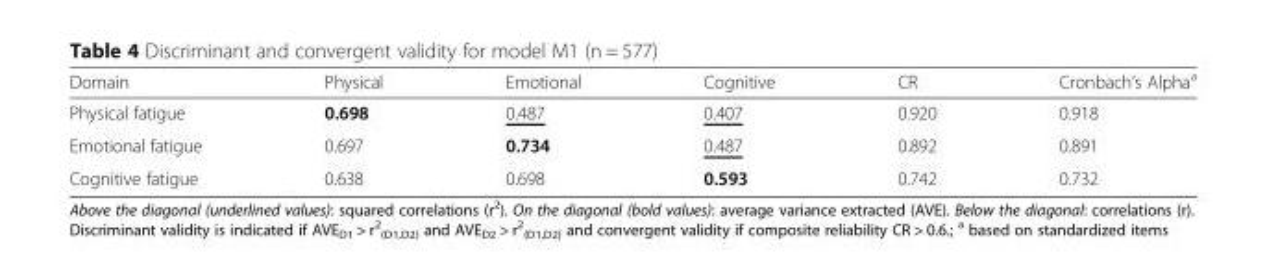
<table><thead><tr><td>Domain</td><td>Physical</td><td>Emotional</td><td>Cognitive</td><td>CR</td><td>Cronbach’s Alpha<sup>a</sup></td></tr></thead><tbody><tr><td>Physical fatigue</td><td>0.698</td><td>0.487</td><td>0.407</td><td>0.920</td><td>0.918</td></tr><tr><td>Emotional fatigue</td><td>0.697</td><td>0.734</td><td>0.487</td><td>0.892</td><td>0.891</td></tr><tr><td>Cognitive fatigue</td><td>0.638</td><td>0.698</td><td>0.593</td><td>0.742</td><td>0.732</td></tr></tbody></table>